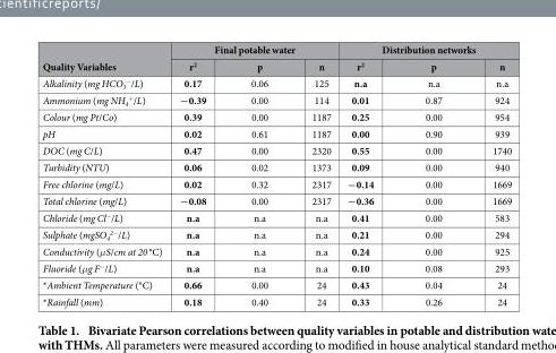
<table><thead><tr><td rowspan="2">Quality Variables</td><td colspan="3">Final potable water</td><td colspan="3">Distribution networks</td></tr><tr><td>r<sup>2</sup></td><td>p</td><td>n</td><td>r<sup>2</sup></td><td>p</td><td>n</td></tr></thead><tbody><tr><td>Alkalinity (mg HCO<sub>3</sub> <sup>−</sup>/L)</td><td>0.17</td><td>0.06</td><td>125</td><td>n.a</td><td>n.a</td><td>n.a</td></tr><tr><td>Ammonium (mg NH<sub>4</sub> <sup>+</sup>/L)</td><td>−0.39</td><td>0.00</td><td>114</td><td>0.01</td><td>0.87</td><td>924</td></tr><tr><td>Colour (mg Pt/Co)</td><td>0.39</td><td>0.00</td><td>1187</td><td>0.25</td><td>0.00</td><td>954</td></tr><tr><td>pH</td><td>0.02</td><td>0.61</td><td>1187</td><td>0.00</td><td>0.90</td><td>939</td></tr><tr><td>DOC (mg C/L)</td><td>0.47</td><td>0.00</td><td>2320</td><td>0.55</td><td>0.00</td><td>1740</td></tr><tr><td>Turbidity (NTU)</td><td>0.06</td><td>0.02</td><td>1373</td><td>0.09</td><td>0.00</td><td>940</td></tr><tr><td>Free chlorine (mg/L)</td><td>0.02</td><td>0.32</td><td>2317</td><td>−0.14</td><td>0.00</td><td>1669</td></tr><tr><td>Total chlorine (mg/L)</td><td>−0.08</td><td>0.00</td><td>2317</td><td>−0.36</td><td>0.00</td><td>1669</td></tr><tr><td>Chloride (mg Cl<sup>−</sup>/L)</td><td>n.a</td><td>n.a</td><td>n.a</td><td>0.41</td><td>0.00</td><td>583</td></tr><tr><td>Sulphate (mgSO<sub>4</sub> <sup>2−</sup>/L)</td><td>n.a</td><td>n.a</td><td>n.a</td><td>0.21</td><td>0.00</td><td>294</td></tr><tr><td>Conductivity (μS/cm at 20 °C)</td><td>n.a</td><td>n.a</td><td>n.a</td><td>0.24</td><td>0.00</td><td>925</td></tr><tr><td>Fluoride (μg F<sup>−</sup>/L)</td><td>n.a</td><td>n.a</td><td>n.a</td><td>0.10</td><td>0.08</td><td>293</td></tr><tr><td>*Ambient Temperature (°C)</td><td>0.66</td><td>0.00</td><td>24</td><td>0.43</td><td>0.04</td><td>24</td></tr><tr><td>*Rainfall (mm)</td><td>0.18</td><td>0.40</td><td>24</td><td>0.33</td><td>0.26</td><td>24</td></tr></tbody></table>